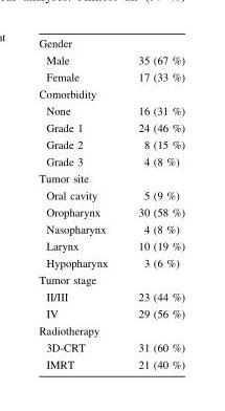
<table><tbody><tr><td colspan="2">Gender</td></tr><tr><td>Male</td><td>35 (67 %)</td></tr><tr><td>Female</td><td>17 (33 %)</td></tr><tr><td colspan="2">Comorbidity</td></tr><tr><td>None</td><td>16 (31 %)</td></tr><tr><td>Grade 1</td><td>24 (46 %)</td></tr><tr><td>Grade 2</td><td>8 (15 %)</td></tr><tr><td>Grade 3</td><td>4 (8 %)</td></tr><tr><td colspan="2">Tumor site</td></tr><tr><td>Oral cavity</td><td>5 (9 %)</td></tr><tr><td>Oropharynx</td><td>30 (58 %)</td></tr><tr><td>Nasopharynx</td><td>4 (8 %)</td></tr><tr><td>Larynx</td><td>10 (19 %)</td></tr><tr><td>Hypopharynx</td><td>3 (6 %)</td></tr><tr><td colspan="2">Tumor stage</td></tr><tr><td>II/III</td><td>23 (44 %)</td></tr><tr><td>IV</td><td>29 (56 %)</td></tr><tr><td colspan="2">Radiotherapy</td></tr><tr><td>3D-CRT</td><td>31 (60 %)</td></tr><tr><td>IMRT</td><td>21 (40 %)</td></tr></tbody></table>